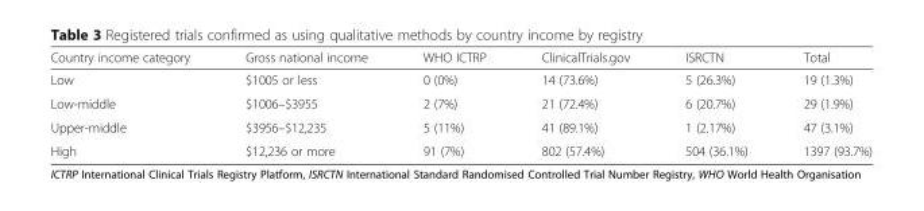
<table><thead><tr><td>Country income category</td><td>Gross national income</td><td>WHO ICTRP</td><td>ClinicalTrials.gov</td><td>ISRCTN</td><td>Total</td></tr></thead><tbody><tr><td>Low</td><td>$1005 or less</td><td>0 (0%)</td><td>14 (73.6%)</td><td>5 (26.3%)</td><td>19 (1.3%)</td></tr><tr><td>Low-middle</td><td>$1006–$3955</td><td>2 (7%)</td><td>21 (72.4%)</td><td>6 (20.7%)</td><td>29 (1.9%)</td></tr><tr><td>Upper-middle</td><td>$3956–$12,235</td><td>5 (11%)</td><td>41 (89.1%)</td><td>1 (2.17%)</td><td>47 (3.1%)</td></tr><tr><td>High</td><td>$12,236 or more</td><td>91 (7%)</td><td>802 (57.4%)</td><td>504 (36.1%)</td><td>1397 (93.7%)</td></tr></tbody></table>